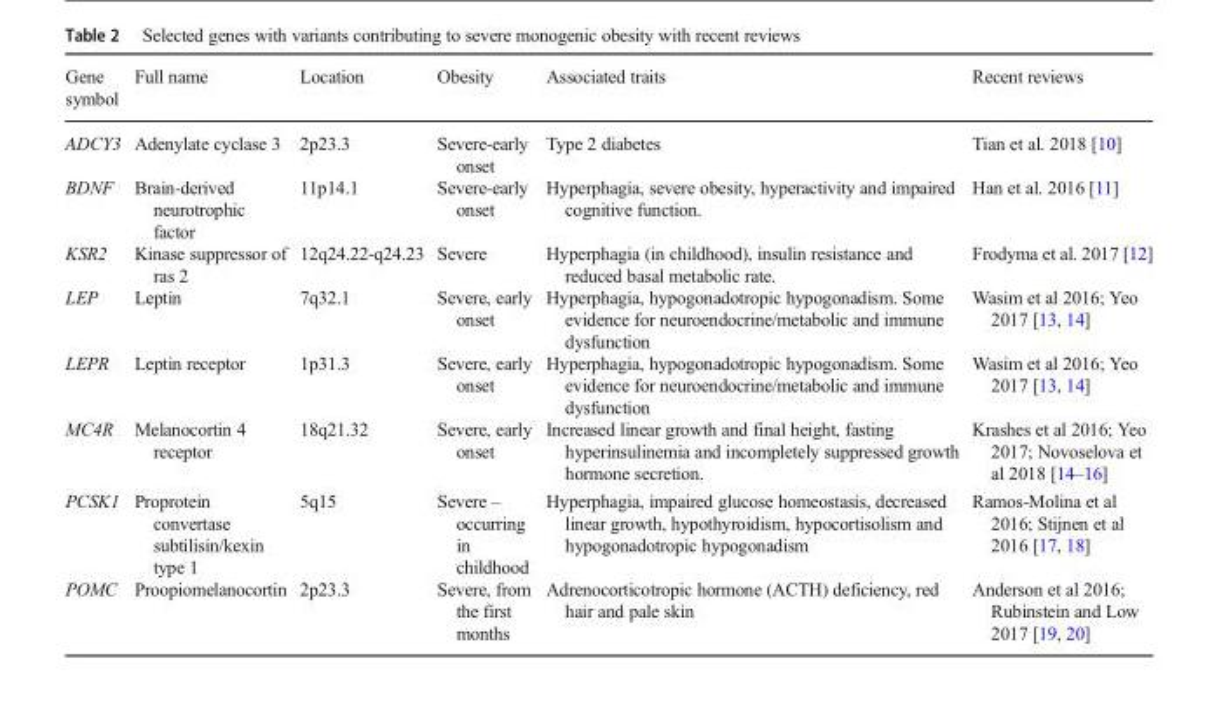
<table><thead><tr><td>Gene symbol</td><td>Full name</td><td>Location</td><td>Obesity</td><td>Associated traits</td><td>Recent reviews</td></tr></thead><tbody><tr><td>ADCY3</td><td>Adenylate cyclase 3</td><td>2p23.3</td><td>Severe-early onset</td><td>Type 2 diabetes</td><td>Tian et al. 2018 [10]</td></tr><tr><td>BDNF</td><td>Brain-derived neurotrophic factor</td><td>11p14.1</td><td>Severe-early onset</td><td>Hyperphagia, severe obesity, hyperactivity and impaired cognitive function.</td><td>Han et al. 2016 [11]</td></tr><tr><td>KSR2</td><td>Kinase suppressor of ras 2</td><td>12q24.22-q24.23</td><td>Severe</td><td>Hyperphagia (in childhood), insulin resistance and reduced basal metabolic rate.</td><td>Frodyma et al. 2017 [12]</td></tr><tr><td>LEP</td><td>Leptin</td><td>7q32.1</td><td>Severe, early onset</td><td>Hyperphagia, hypogonadotropic hypogonadism. Some evidence for neuroendocrine/metabolic and immune dysfunction</td><td>Wasim et al 2016; Yeo 2017 [13, 14]</td></tr><tr><td>LEPR</td><td>Leptin receptor</td><td>1p31.3</td><td>Severe, early onset</td><td>Hyperphagia, hypogonadotropic hypogonadism. Some evidence for neuroendocrine/metabolic and immune dysfunction</td><td>Wasim et al 2016; Yeo 2017 [13, 14]</td></tr><tr><td>MC4R</td><td>Melanocortin 4 receptor</td><td>18q21.32</td><td>Severe, early onset</td><td>Increased linear growth and final height, fasting hyperinsulinemia and incompletely suppressed growth hormone secretion.</td><td>Krashes et al 2016; Yeo 2017; Novoselova et al 2018 [14–16]</td></tr><tr><td>PCSK1</td><td>Proprotein convertase subtilisin/kexin type 1</td><td>5q15</td><td>Severe – occurring in childhood</td><td>Hyperphagia, impaired glucose homeostasis, decreased linear growth, hypothyroidism, hypocortisolism and hypogonadotropic hypogonadism</td><td>Ramos-Molina et al 2016; Stijnen et al 2016 [17, 18]</td></tr><tr><td>POMC</td><td>Proopiomelanocortin</td><td>2p23.3</td><td>Severe, from the first months</td><td>Adrenocorticotropic hormone (ACTH) deficiency, red hair and pale skin</td><td>Anderson et al 2016; Rubinstein and Low 2017 [19, 20]</td></tr></tbody></table>